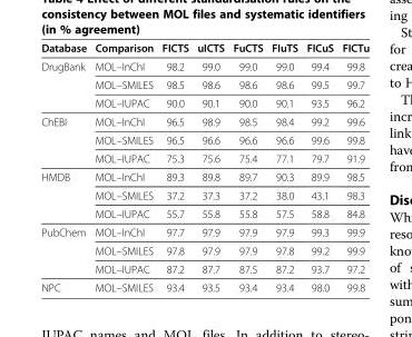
<table><thead><tr><td>Database</td><td>Comparison</td><td>FICTS</td><td>uICTS</td><td>FuCTS</td><td>FIuTS</td><td>FICuS</td><td>FICTu</td></tr></thead><tbody><tr><td rowspan="3">DrugBank</td><td>MOL–InChI</td><td>98.2</td><td>99.0</td><td>99.0</td><td>99.0</td><td>99.4</td><td>99.8</td></tr><tr><td>MOL–SMILES</td><td>98.5</td><td>98.6</td><td>98.6</td><td>98.6</td><td>99.5</td><td>99.7</td></tr><tr><td>MOL–IUPAC</td><td>90.0</td><td>90.1</td><td>90.0</td><td>90.1</td><td>93.5</td><td>96.2</td></tr><tr><td rowspan="3">ChEBI</td><td>MOL–InChI</td><td>96.5</td><td>98.9</td><td>98.5</td><td>98.4</td><td>99.2</td><td>99.6</td></tr><tr><td>MOL–SMILES</td><td>96.5</td><td>96.6</td><td>96.6</td><td>96.6</td><td>99.6</td><td>99.8</td></tr><tr><td>MOL–IUPAC</td><td>75.3</td><td>75.6</td><td>75.4</td><td>77.1</td><td>79.7</td><td>91.9</td></tr><tr><td rowspan="3">HMDB</td><td>MOL–InChI</td><td>89.3</td><td>89.8</td><td>89.7</td><td>90.3</td><td>89.9</td><td>98.5</td></tr><tr><td>MOL–SMILES</td><td>37.2</td><td>37.3</td><td>37.2</td><td>38.0</td><td>43.1</td><td>98.3</td></tr><tr><td>MOL–IUPAC</td><td>55.7</td><td>55.8</td><td>55.8</td><td>57.5</td><td>58.8</td><td>84.8</td></tr><tr><td rowspan="3">PubChem</td><td>MOL–InChI</td><td>97.7</td><td>97.9</td><td>97.9</td><td>97.9</td><td>99.3</td><td>99.9</td></tr><tr><td>MOL–SMILES</td><td>97.8</td><td>97.9</td><td>97.9</td><td>97.8</td><td>99.2</td><td>99.9</td></tr><tr><td>MOL–IUPAC</td><td>87.2</td><td>87.7</td><td>87.5</td><td>87.2</td><td>93.7</td><td>97.2</td></tr><tr><td>NPC</td><td>MOL–SMILES</td><td>93.4</td><td>93.5</td><td>93.4</td><td>93.4</td><td>98.0</td><td>99.8</td></tr></tbody></table>